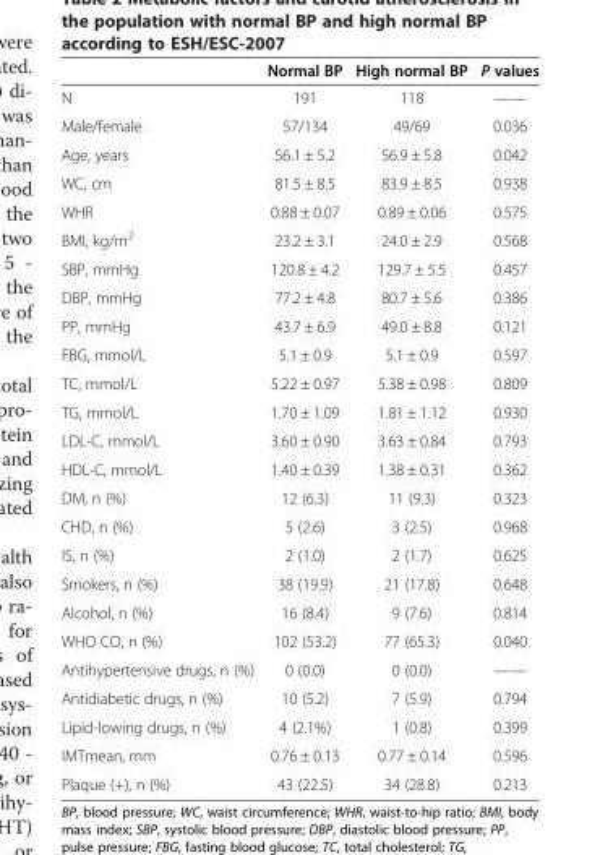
<table><thead><tr><td></td><td>Normal BP</td><td>High normal BP</td><td>P values</td></tr></thead><tbody><tr><td>N</td><td>191</td><td>118</td><td>——</td></tr><tr><td>Male/female</td><td>57/134</td><td>49/69</td><td>0.036</td></tr><tr><td>Age, years</td><td>56.1 ± 5.2</td><td>56.9 ± 5.8</td><td>0.042</td></tr><tr><td>WC, cm</td><td>81.5 ± 8.5</td><td>83.9 ± 8.5</td><td>0.938</td></tr><tr><td>WHR</td><td>0.88 ± 0.07</td><td>0.89 ± 0.06</td><td>0.575</td></tr><tr><td>BMI, kg/m<sup>2</sup></td><td>23.2 ± 3.1</td><td>24.0 ± 2.9</td><td>0.568</td></tr><tr><td>SBP, mmHg</td><td>120.8 ± 4.2</td><td>129.7 ± 5.5</td><td>0.457</td></tr><tr><td>DBP, mmHg</td><td>77.2 ± 4.8</td><td>80.7 ± 5.6</td><td>0.386</td></tr><tr><td>PP, mmHg</td><td>43.7 ± 6.9</td><td>49.0 ± 8.8</td><td>0.121</td></tr><tr><td>FBG, mmol/L</td><td>5.1 ± 0.9</td><td>5.1 ± 0.9</td><td>0.597</td></tr><tr><td>TC, mmol/L</td><td>5.22 ± 0.97</td><td>5.38 ± 0.98</td><td>0.809</td></tr><tr><td>TG, mmol/L</td><td>1.70 ± 1.09</td><td>1.81 ± 1.12</td><td>0.930</td></tr><tr><td>LDL-C, mmol/L</td><td>3.60 ± 0.90</td><td>3.63 ± 0.84</td><td>0.793</td></tr><tr><td>HDL-C, mmol/L</td><td>1.40 ± 0.39</td><td>1.38 ± 0.31</td><td>0.362</td></tr><tr><td>DM, n (%)</td><td>12 (6.3)</td><td>11 (9.3)</td><td>0.323</td></tr><tr><td>CHD, n (%)</td><td>5 (2.6)</td><td>3 (2.5)</td><td>0.968</td></tr><tr><td>IS, n (%)</td><td>2 (1.0)</td><td>2 (1.7)</td><td>0.625</td></tr><tr><td>Smokers, n (%)</td><td>38 (19.9)</td><td>21 (17.8)</td><td>0.648</td></tr><tr><td>Alcohol, n (%)</td><td>16 (8.4)</td><td>9 (7.6)</td><td>0.814</td></tr><tr><td>WHO CO, n (%)</td><td>102 (53.2)</td><td>77 (65.3)</td><td>0.040</td></tr><tr><td>Antihypertensive drugs, n (%)</td><td>0 (0.0)</td><td>0 (0.0)</td><td>——</td></tr><tr><td>Antidiabetic drugs, n (%)</td><td>10 (5.2)</td><td>7 (5.9)</td><td>0.794</td></tr><tr><td>Lipid-lowing drugs, n (%)</td><td>4 (2.1%)</td><td>1 (0.8)</td><td>0.399</td></tr><tr><td>IMTmean, mm</td><td>0.76 ± 0.13</td><td>0.77 ± 0.14</td><td>0.596</td></tr><tr><td>Plaque (+), n (%)</td><td>43 (22.5)</td><td>34 (28.8)</td><td>0.213</td></tr></tbody></table>